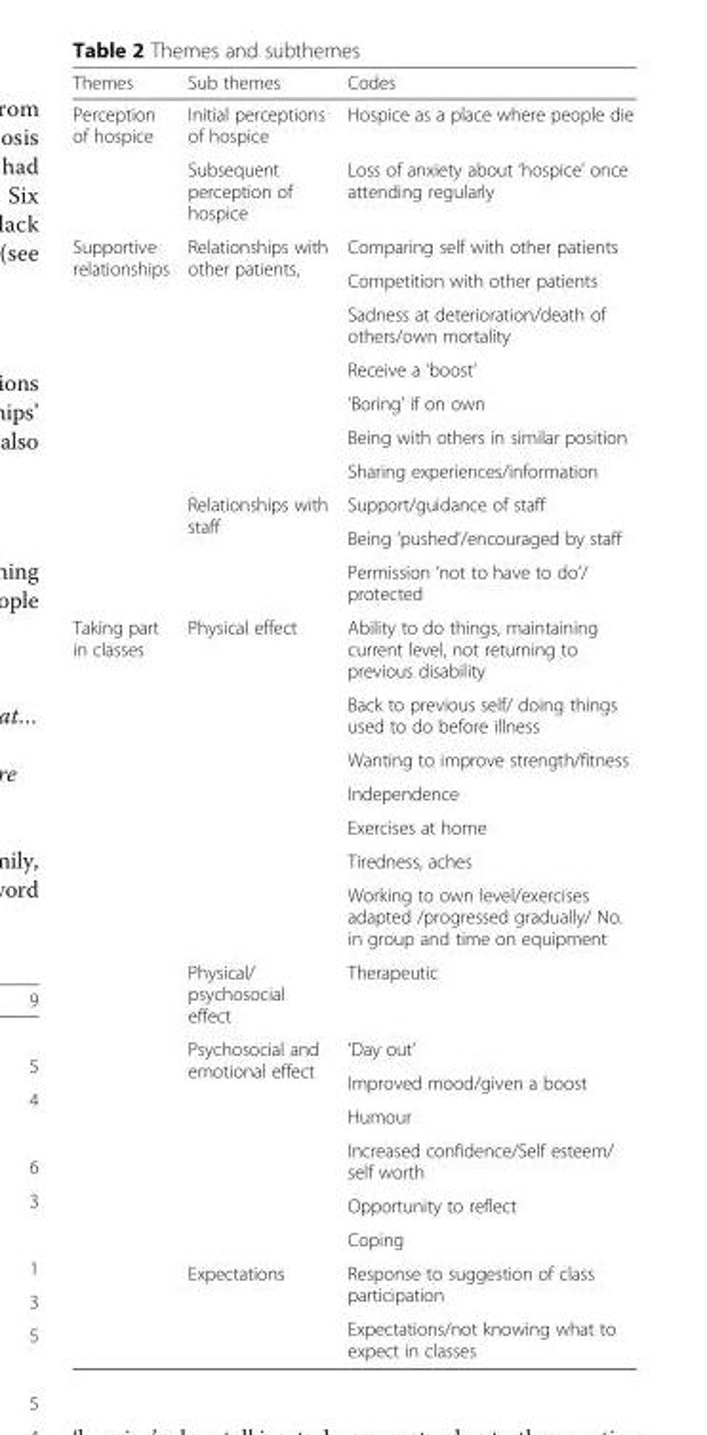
<table><thead><tr><td>Themes</td><td>Sub themes</td><td>Codes</td></tr></thead><tbody><tr><td rowspan="2">Perception of hospice</td><td>Initial perceptions of hospice</td><td>Hospice as a place where people die</td></tr><tr><td>Subsequent perception of hospice</td><td>Loss of anxiety about ‘hospice’ once attending regularly</td></tr><tr><td rowspan="10">Supportive relationships</td><td rowspan="7">Relationships with other patients,</td><td>Comparing self with other patients</td></tr><tr><td>Competition with other patients</td></tr><tr><td>Sadness at deterioration/death of others/own mortality</td></tr><tr><td>Receive a ‘boost’</td></tr><tr><td>‘Boring’ if on own</td></tr><tr><td>Being with others in similar position</td></tr><tr><td>Sharing experiences/information</td></tr><tr><td rowspan="3">Relationships with staff</td><td>Support/guidance of staff</td></tr><tr><td>Being ‘pushed’/encouraged by staff</td></tr><tr><td>Permission ‘not to have to do’/ protected</td></tr><tr><td rowspan="16">Taking part in classes</td><td rowspan="7">Physical effect</td><td>Ability to do things, maintaining current level, not returning to previous disability</td></tr><tr><td>Back to previous self/ doing things used to do before illness</td></tr><tr><td>Wanting to improve strength/fitness</td></tr><tr><td>Independence</td></tr><tr><td>Exercises at home</td></tr><tr><td>Tiredness, aches</td></tr><tr><td>Working to own level/exercises adapted /progressed gradually/ No. in group and time on equipment</td></tr><tr><td>Physical/ psychosocial effect</td><td>Therapeutic</td></tr><tr><td rowspan="6">Psychosocial and emotional effect</td><td>‘Day out’</td></tr><tr><td>Improved mood/given a boost</td></tr><tr><td>Humour</td></tr><tr><td>Increased confidence/Self esteem/ self worth</td></tr><tr><td>Opportunity to reflect</td></tr><tr><td>Coping</td></tr><tr><td rowspan="2">Expectations</td><td>Response to suggestion of class participation</td></tr><tr><td>Expectations/not knowing what to expect in classes</td></tr></tbody></table>